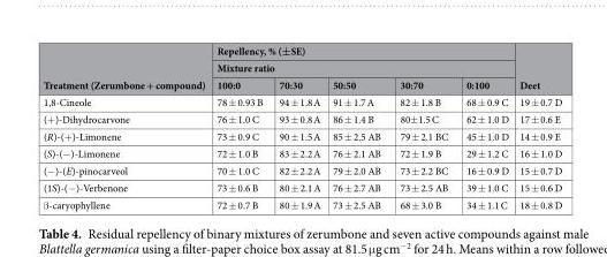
<table><thead><tr><td rowspan="3">Treatment (Zerumbone + compound)</td><td rowspan="2" colspan="5">Repellency, % (±SE) Mixture ratio</td><td rowspan="3">Deet</td></tr><tr></tr><tr><td>100:0</td><td>70:30</td><td>50:50</td><td>30:70</td><td>0:100</td></tr></thead><tbody><tr><td>1,8-Cineole</td><td>78 ± 0.93 B</td><td>94 ± 1.8 A</td><td>91 ± 1.7 A</td><td>82 ± 1.8 B</td><td>68 ± 0.9 C</td><td>19 ± 0.7 D</td></tr><tr><td>(+)-Dihydrocarvone</td><td>76 ± 1.0 C</td><td>93 ± 0.8 A</td><td>86 ± 1.4 B</td><td>80±1.5 C</td><td>62 ± 1.0 D</td><td>17 ± 0.6 E</td></tr><tr><td>(R)-(+)-Limonene</td><td>73 ± 0.9 C</td><td>90 ± 1.5 A</td><td>85 ± 2.5 AB</td><td>79 ± 2.1 BC</td><td>45 ± 1.0 D</td><td>14 ± 0.9 E</td></tr><tr><td>(S)-(−)-Limonene</td><td>72 ± 1.0 B</td><td>83 ± 2.2 A</td><td>76 ± 2.1 AB</td><td>72 ± 1.9 B</td><td>29 ± 1.2 C</td><td>16 ± 1.0 D</td></tr><tr><td>(−)-(E)-pinocarveol</td><td>70 ± 1.0 C</td><td>82 ± 2.2 A</td><td>79 ± 2.0 AB</td><td>73 ± 2.2 BC</td><td>16 ± 0.9 D</td><td>15 ± 0.7 D</td></tr><tr><td>(1S)-(−)-Verbenone</td><td>73 ± 0.6 B</td><td>80 ± 2.1 A</td><td>76 ± 2.7 AB</td><td>73 ± 2.5 AB</td><td>39 ± 1.0 C</td><td>15 ± 0.6 D</td></tr><tr><td>β-caryophyllene</td><td>72 ± 0.7 B</td><td>80 ± 1.9 A</td><td>73 ± 2.5 AB</td><td>68 ± 3.0 B</td><td>34 ± 1.1 C</td><td>18 ± 0.8 D</td></tr></tbody></table>